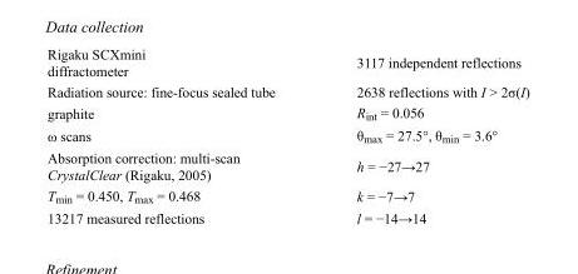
<table><tbody><tr><td>Rigaku SCXmini diffractometer</td><td>3117 independent reflections</td></tr><tr><td>Radiation source: fine-focus sealed tube</td><td>2638 reflections with I &gt; 2σ(I)</td></tr><tr><td>graphite</td><td>R<sub>int</sub> = 0.056</td></tr><tr><td>ω scans</td><td>θ<sub>max</sub> = 27.5°, θ<sub>min</sub> = 3.6°</td></tr><tr><td>Absorption correction: multi-scan CrystalClear (Rigaku, 2005)</td><td>h = −27→27</td></tr><tr><td>T<sub>min</sub> = 0.450, T<sub>max</sub> = 0.468</td><td>k = −7→7</td></tr><tr><td>13217 measured reflections</td><td>l = −14→14</td></tr></tbody></table>